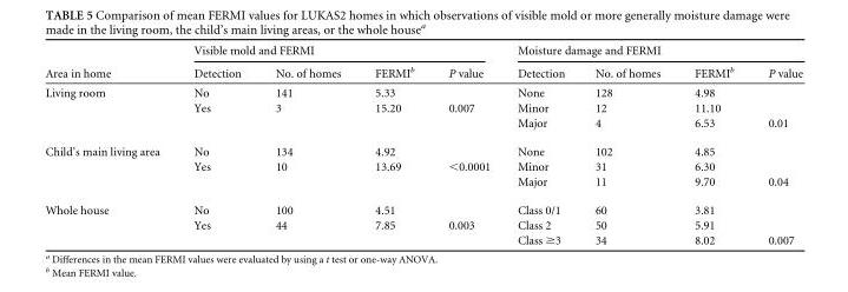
<table><thead><tr><td rowspan="2">Area in home</td><td colspan="4">Visible mold and FERMI</td><td colspan="4">Moisture damage and FERMI</td></tr><tr><td>Detection</td><td>No. of homes</td><td>FERMI<sup>b</sup></td><td>P value</td><td>Detection</td><td>No. of homes</td><td>FERMI<sup>b</sup></td><td>P value</td></tr></thead><tbody><tr><td rowspan="3">Living room</td><td>No</td><td>141</td><td>5.33</td><td></td><td>None</td><td>128</td><td>4.98</td><td></td></tr><tr><td>Yes</td><td>3</td><td>15.20</td><td>0.007</td><td>Minor</td><td>12</td><td>11.10</td><td></td></tr><tr><td></td><td></td><td></td><td></td><td>Major</td><td>4</td><td>6.53</td><td>0.01</td></tr><tr><td rowspan="3">Child’s main living area</td><td>No</td><td>134</td><td>4.92</td><td></td><td>None</td><td>102</td><td>4.85</td><td></td></tr><tr><td>Yes</td><td>10</td><td>13.69</td><td>&lt;0.0001</td><td>Minor</td><td>31</td><td>6.30</td><td></td></tr><tr><td></td><td></td><td></td><td></td><td>Major</td><td>11</td><td>9.70</td><td>0.04</td></tr><tr><td rowspan="3">Whole house</td><td>No</td><td>100</td><td>4.51</td><td></td><td>Class 0/1</td><td>60</td><td>3.81</td><td></td></tr><tr><td>Yes</td><td>44</td><td>7.85</td><td>0.003</td><td>Class 2</td><td>50</td><td>5.91</td><td></td></tr><tr><td></td><td></td><td></td><td></td><td>Class ≥3</td><td>34</td><td>8.02</td><td>0.007</td></tr></tbody></table>